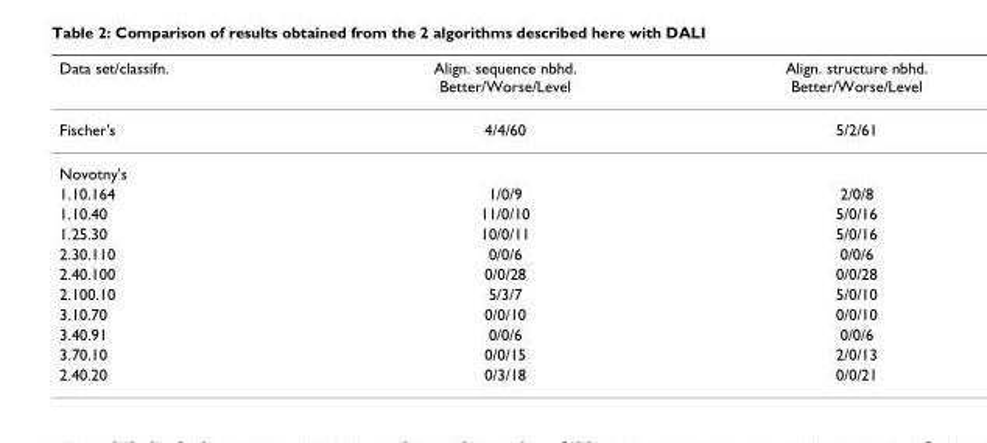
<table><thead><tr><td>Data set/classifn.</td><td>Align. sequence nbhd. Better/Worse/Level</td><td>Align. structure nbhd. Better/Worse/Level</td></tr></thead><tbody><tr><td>Fischer&#x27;s</td><td>4/4/60</td><td>5/2/61</td></tr><tr><td colspan="3">Novotny&#x27;s</td></tr><tr><td>1.10.164</td><td>1/0/9</td><td>2/0/8</td></tr><tr><td>1.10.40</td><td>11/0/10</td><td>5/0/16</td></tr><tr><td>1.25.30</td><td>10/0/11</td><td>5/0/16</td></tr><tr><td>2.30.110</td><td>0/0/6</td><td>0/0/6</td></tr><tr><td>2.40.100</td><td>0/0/28</td><td>0/0/28</td></tr><tr><td>2.100.10</td><td>5/3/7</td><td>5/0/10</td></tr><tr><td>3.10.70</td><td>0/0/10</td><td>0/0/10</td></tr><tr><td>3.40.91</td><td>0/0/6</td><td>0/0/6</td></tr><tr><td>3.70.10</td><td>0/0/15</td><td>2/0/13</td></tr><tr><td>2.40.20</td><td>0/3/18</td><td>0/0/21</td></tr></tbody></table>